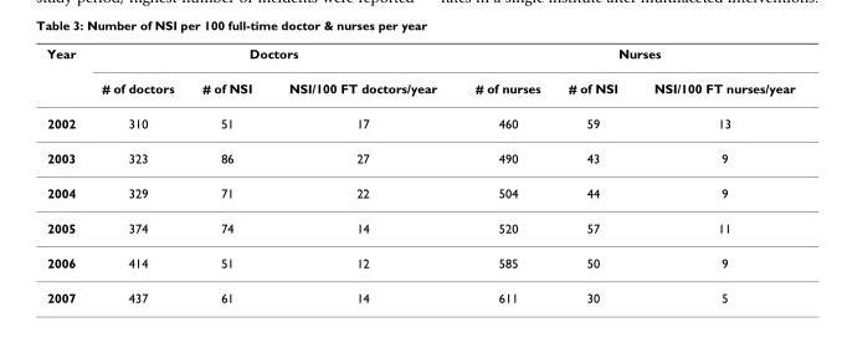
<table><thead><tr><td rowspan="2">Year</td><td colspan="3">Doctors</td><td colspan="3">Nurses</td></tr><tr><td># of doctors</td><td># of NSI</td><td>NSI/100 FT doctors/year</td><td># of nurses</td><td># of NSI</td><td>NSI/100 FT nurses/year</td></tr></thead><tbody><tr><td>2002</td><td>310</td><td>51</td><td>17</td><td>460</td><td>59</td><td>13</td></tr><tr><td>2003</td><td>323</td><td>86</td><td>27</td><td>490</td><td>43</td><td>9</td></tr><tr><td>2004</td><td>329</td><td>71</td><td>22</td><td>504</td><td>44</td><td>9</td></tr><tr><td>2005</td><td>374</td><td>74</td><td>14</td><td>520</td><td>57</td><td>11</td></tr><tr><td>2006</td><td>414</td><td>51</td><td>12</td><td>585</td><td>50</td><td>9</td></tr><tr><td>2007</td><td>437</td><td>61</td><td>14</td><td>611</td><td>30</td><td>5</td></tr></tbody></table>